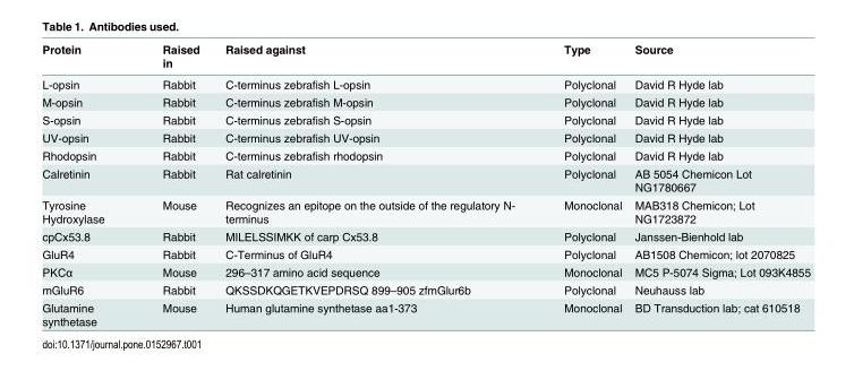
<table><thead><tr><td>Protein</td><td>Raised in</td><td>Raised against</td><td>Type</td><td>Source</td></tr></thead><tbody><tr><td>L-opsin</td><td>Rabbit</td><td>C-terminus zebrafish L-opsin</td><td>Polyclonal</td><td>David R Hyde lab</td></tr><tr><td>M-opsin</td><td>Rabbit</td><td>C-terminus zebrafish M-opsin</td><td>Polyclonal</td><td>David R Hyde lab</td></tr><tr><td>S-opsin</td><td>Rabbit</td><td>C-terminus zebrafish S-opsin</td><td>Polyclonal</td><td>David R Hyde lab</td></tr><tr><td>UV-opsin</td><td>Rabbit</td><td>C-terminus zebrafish UV-opsin</td><td>Polyclonal</td><td>David R Hyde lab</td></tr><tr><td>Rhodopsin</td><td>Rabbit</td><td>C-terminus zebrafish rhodopsin</td><td>Polyclonal</td><td>David R Hyde lab</td></tr><tr><td>Calretinin</td><td>Rabbit</td><td>Rat calretinin</td><td>Polyclonal</td><td>AB 5054 Chemicon Lot NG1780667</td></tr><tr><td>Tyrosine Hydroxylase</td><td>Mouse</td><td>Recognizes an epitope on the outside of the regulatory N- terminus</td><td>Monoclonal</td><td>MAB318 Chemicon; Lot NG1723872</td></tr><tr><td>cpCx53.8</td><td>Rabbit</td><td>MILELSSIMKK of carp Cx53.8</td><td>Polyclonal</td><td>Janssen-Bienhold lab</td></tr><tr><td>GluR4</td><td>Rabbit</td><td>C-Terminus of GluR4</td><td>Polyclonal</td><td>AB1508 Chemicon; lot 2070825</td></tr><tr><td>PKCα</td><td>Mouse</td><td>296–317 amino acid sequence</td><td>Monoclonal</td><td>MC5 P-5074 Sigma; Lot 093K4855</td></tr><tr><td>mGluR6</td><td>Rabbit</td><td>QKSSDKQGETKVEPDRSQ 899–905 zfmGlur6b</td><td>Polyclonal</td><td>Neuhauss lab</td></tr><tr><td>Glutamine synthetase</td><td>Mouse</td><td>Human glutamine synthetase aa1-373</td><td>Monoclonal</td><td>BD Transduction lab; cat 610518</td></tr></tbody></table>